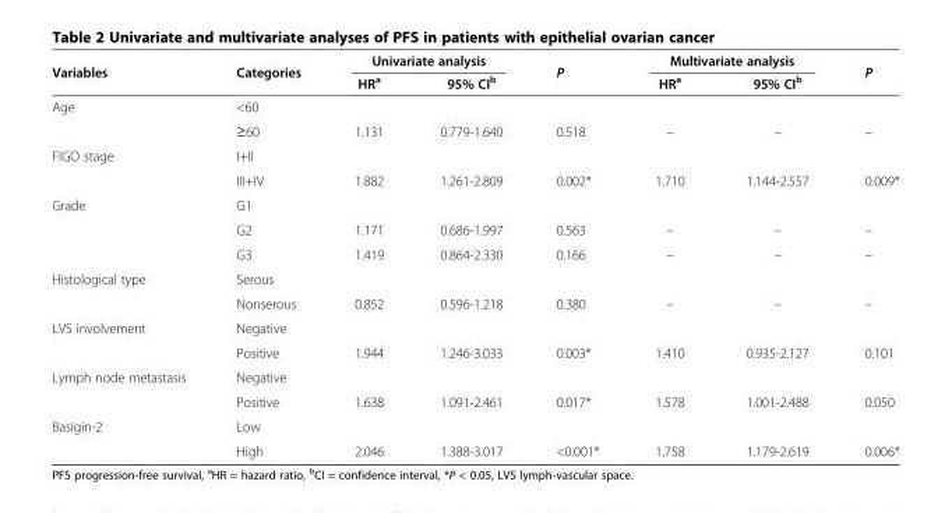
<table><thead><tr><td rowspan="2">Variables</td><td rowspan="2">Categories</td><td colspan="2">Univariate analysis</td><td rowspan="2">P</td><td colspan="2">Multivariate analysis</td><td rowspan="2">P</td></tr><tr><td>HR<sup>a</sup></td><td>95% CI<sup>b</sup></td><td>HR<sup>a</sup></td><td>95% CI<sup>b</sup></td></tr></thead><tbody><tr><td rowspan="2">Age</td><td>&lt;60</td><td></td><td></td><td></td><td></td><td></td><td></td></tr><tr><td>≥60</td><td>1.131</td><td>0.779-1.640</td><td>0.518</td><td>–</td><td>–</td><td>–</td></tr><tr><td rowspan="2">FIGO stage</td><td>I+II</td><td></td><td></td><td></td><td></td><td></td><td></td></tr><tr><td>III+IV</td><td>1.882</td><td>1.261-2.809</td><td>0.002*</td><td>1.710</td><td>1.144-2.557</td><td>0.009*</td></tr><tr><td rowspan="3">Grade</td><td>G1</td><td></td><td></td><td></td><td></td><td></td><td></td></tr><tr><td>G2</td><td>1.171</td><td>0.686-1.997</td><td>0.563</td><td>–</td><td>–</td><td>–</td></tr><tr><td>G3</td><td>1.419</td><td>0.864-2.330</td><td>0.166</td><td>–</td><td>–</td><td>–</td></tr><tr><td rowspan="2">Histological type</td><td>Serous</td><td></td><td></td><td></td><td></td><td></td><td></td></tr><tr><td>Nonserous</td><td>0.852</td><td>0.596-1.218</td><td>0.380</td><td>–</td><td>–</td><td>–</td></tr><tr><td rowspan="2">LVS involvement</td><td>Negative</td><td></td><td></td><td></td><td></td><td></td><td></td></tr><tr><td>Positive</td><td>1.944</td><td>1.246-3.033</td><td>0.003*</td><td>1.410</td><td>0.935-2.127</td><td>0.101</td></tr><tr><td rowspan="2">Lymph node metastasis</td><td>Negative</td><td></td><td></td><td></td><td></td><td></td><td></td></tr><tr><td>Positive</td><td>1.638</td><td>1.091-2.461</td><td>0.017*</td><td>1.578</td><td>1.001-2.488</td><td>0.050</td></tr><tr><td rowspan="2">Basigin-2</td><td>Low</td><td></td><td></td><td></td><td></td><td></td><td></td></tr><tr><td>High</td><td>2.046</td><td>1.388-3.017</td><td>&lt;0.001*</td><td>1.758</td><td>1.179-2.619</td><td>0.006*</td></tr></tbody></table>